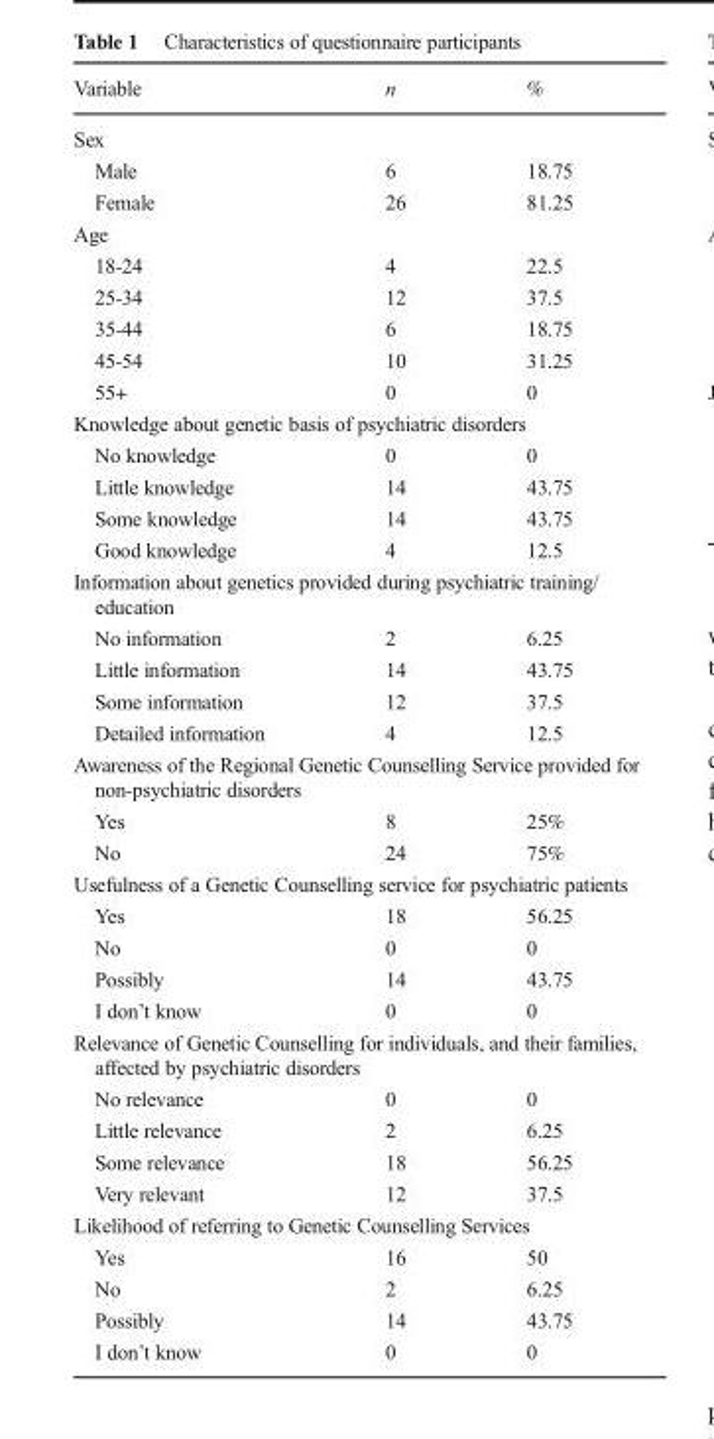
<table><thead><tr><td>Variable</td><td>n</td><td>%</td></tr></thead><tbody><tr><td colspan="3">Sex</td></tr><tr><td>Male</td><td>6</td><td>18.75</td></tr><tr><td>Female</td><td>26</td><td>81.25</td></tr><tr><td colspan="3">Age</td></tr><tr><td>18-24</td><td>4</td><td>22.5</td></tr><tr><td>25-34</td><td>12</td><td>37.5</td></tr><tr><td>35-44</td><td>6</td><td>18.75</td></tr><tr><td>45-54</td><td>10</td><td>31.25</td></tr><tr><td>55+</td><td>0</td><td>0</td></tr><tr><td colspan="3">Knowledge about genetic basis of psychiatric disorders</td></tr><tr><td>No knowledge</td><td>0</td><td>0</td></tr><tr><td>Little knowledge</td><td>14</td><td>43.75</td></tr><tr><td>Some knowledge</td><td>14</td><td>43.75</td></tr><tr><td>Good knowledge</td><td>4</td><td>12.5</td></tr><tr><td colspan="3">Information about genetics provided during psychiatric training/ education</td></tr><tr><td>No information</td><td>2</td><td>6.25</td></tr><tr><td>Little information</td><td>14</td><td>43.75</td></tr><tr><td>Some information</td><td>12</td><td>37.5</td></tr><tr><td>Detailed information</td><td>4</td><td>12.5</td></tr><tr><td colspan="3">Awareness of the Regional Genetic Counselling Service provided for non-psychiatric disorders</td></tr><tr><td>Yes</td><td>8</td><td>25%</td></tr><tr><td>No</td><td>24</td><td>75%</td></tr><tr><td colspan="3">Usefulness of a Genetic Counselling service for psychiatric patients</td></tr><tr><td>Yes</td><td>18</td><td>56.25</td></tr><tr><td>No</td><td>0</td><td>0</td></tr><tr><td>Possibly</td><td>14</td><td>43.75</td></tr><tr><td>I don’t know</td><td>0</td><td>0</td></tr><tr><td colspan="3">Relevance of Genetic Counselling for individuals, and their families, affected by psychiatric disorders</td></tr><tr><td>No relevance</td><td>0</td><td>0</td></tr><tr><td>Little relevance</td><td>2</td><td>6.25</td></tr><tr><td>Some relevance</td><td>18</td><td>56.25</td></tr><tr><td>Very relevant</td><td>12</td><td>37.5</td></tr><tr><td colspan="3">Likelihood of referring to Genetic Counselling Services</td></tr><tr><td>Yes</td><td>16</td><td>50</td></tr><tr><td>No</td><td>2</td><td>6.25</td></tr><tr><td>Possibly</td><td>14</td><td>43.75</td></tr><tr><td>I don’t know</td><td>0</td><td>0</td></tr></tbody></table>